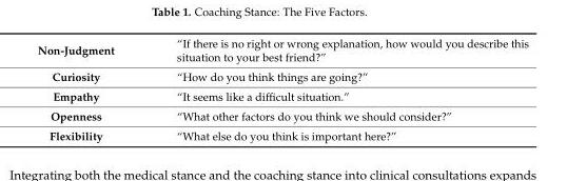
<table><tbody><tr><td>Non-Judgment</td><td>“If there is no right or wrong explanation, how would you describe this situation to your best friend?”</td></tr><tr><td>Curiosity</td><td>“How do you think things are going?”</td></tr><tr><td>Empathy</td><td>“It seems like a difficult situation.”</td></tr><tr><td>Openness</td><td>“What other factors do you think we should consider?”</td></tr><tr><td>Flexibility</td><td>“What else do you think is important here?”</td></tr></tbody></table>